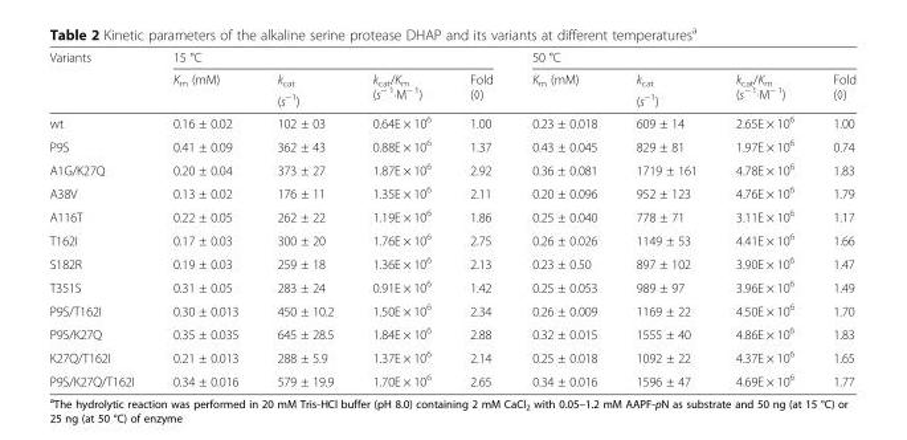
<table><thead><tr><td rowspan="3">Variants</td><td colspan="4">15 °C</td><td colspan="4">50 °C</td></tr><tr><td rowspan="2">K<sub>m</sub> (mM)</td><td rowspan="2">k<sub>cat</sub> (s<sup>−1</sup>)</td><td rowspan="2">k<sub>cat</sub>/K<sub>m</sub> (s<sup>− 1</sup>·M<sup>− 1</sup>)</td><td rowspan="2">Fold (◊)</td><td rowspan="2">K<sub>m</sub> (mM)</td><td rowspan="2">k<sub>cat</sub> (s<sup>−1</sup>)</td><td rowspan="2">k<sub>cat</sub>/K<sub>m</sub> (s<sup>− 1</sup>·M<sup>− 1</sup>)</td><td rowspan="2">Fold (◊)</td></tr><tr></tr></thead><tbody><tr><td>wt</td><td>0.16 ± 0.02</td><td>102 ± 03</td><td>0.64E × 10<sup>6</sup></td><td>1.00</td><td>0.23 ± 0.018</td><td>609 ± 14</td><td>2.65E × 10<sup>6</sup></td><td>1.00</td></tr><tr><td>P9S</td><td>0.41 ± 0.09</td><td>362 ± 43</td><td>0.88E × 10<sup>6</sup></td><td>1.37</td><td>0.43 ± 0.045</td><td>829 ± 81</td><td>1.97E × 10<sup>6</sup></td><td>0.74</td></tr><tr><td>A1G/K27Q</td><td>0.20 ± 0.04</td><td>373 ± 27</td><td>1.87E × 10<sup>6</sup></td><td>2.92</td><td>0.36 ± 0.081</td><td>1719 ± 161</td><td>4.78E × 10<sup>6</sup></td><td>1.83</td></tr><tr><td>A38V</td><td>0.13 ± 0.02</td><td>176 ± 11</td><td>1.35E × 10<sup>6</sup></td><td>2.11</td><td>0.20 ± 0.096</td><td>952 ± 123</td><td>4.76E × 10<sup>6</sup></td><td>1.79</td></tr><tr><td>A116T</td><td>0.22 ± 0.05</td><td>262 ± 22</td><td>1.19E × 10<sup>6</sup></td><td>1.86</td><td>0.25 ± 0.040</td><td>778 ± 71</td><td>3.11E × 10<sup>6</sup></td><td>1.17</td></tr><tr><td>T162I</td><td>0.17 ± 0.03</td><td>300 ± 20</td><td>1.76E × 10<sup>6</sup></td><td>2.75</td><td>0.26 ± 0.026</td><td>1149 ± 53</td><td>4.41E × 10<sup>6</sup></td><td>1.66</td></tr><tr><td>S182R</td><td>0.19 ± 0.03</td><td>259 ± 18</td><td>1.36E × 10<sup>6</sup></td><td>2.13</td><td>0.23 ± 0.50</td><td>897 ± 102</td><td>3.90E × 10<sup>6</sup></td><td>1.47</td></tr><tr><td>T351S</td><td>0.31 ± 0.05</td><td>283 ± 24</td><td>0.91E × 10<sup>6</sup></td><td>1.42</td><td>0.25 ± 0.053</td><td>989 ± 97</td><td>3.96E × 10<sup>6</sup></td><td>1.49</td></tr><tr><td>P9S/T162I</td><td>0.30 ± 0.013</td><td>450 ± 10.2</td><td>1.50E × 10<sup>6</sup></td><td>2.34</td><td>0.26 ± 0.009</td><td>1169 ± 22</td><td>4.50E × 10<sup>6</sup></td><td>1.70</td></tr><tr><td>P9S/K27Q</td><td>0.35 ± 0.035</td><td>645 ± 28.5</td><td>1.84E × 10<sup>6</sup></td><td>2.88</td><td>0.32 ± 0.015</td><td>1555 ± 40</td><td>4.86E × 10<sup>6</sup></td><td>1.83</td></tr><tr><td>K27Q/T162I</td><td>0.21 ± 0.013</td><td>288 ± 5.9</td><td>1.37E × 10<sup>6</sup></td><td>2.14</td><td>0.25 ± 0.018</td><td>1092 ± 22</td><td>4.37E × 10<sup>6</sup></td><td>1.65</td></tr><tr><td>P9S/K27Q/T162I</td><td>0.34 ± 0.016</td><td>579 ± 19.9</td><td>1.70E × 10<sup>6</sup></td><td>2.65</td><td>0.34 ± 0.016</td><td>1596 ± 47</td><td>4.69E × 10<sup>6</sup></td><td>1.77</td></tr></tbody></table>